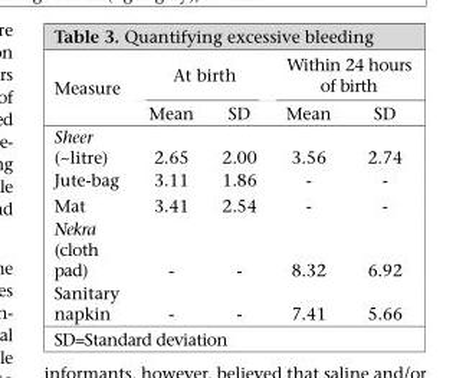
<table><thead><tr><td rowspan="2">Measure</td><td colspan="2">At birth</td><td colspan="2">Within 24 hours of birth</td></tr><tr><td>Mean</td><td>SD</td><td>Mean</td><td>SD</td></tr></thead><tbody><tr><td>Sheer (~litre)</td><td>2.65</td><td>2.00</td><td>3.56</td><td>2.74</td></tr><tr><td>Jute-bag</td><td>3.11</td><td>1.86</td><td>-</td><td>-</td></tr><tr><td>Mat</td><td>3.41</td><td>2.54</td><td>-</td><td>-</td></tr><tr><td>Nekra (cloth pad)</td><td>-</td><td>-</td><td>8.32</td><td>6.92</td></tr><tr><td>Sanitary napkin</td><td>-</td><td>-</td><td>7.41</td><td>5.66</td></tr></tbody></table>